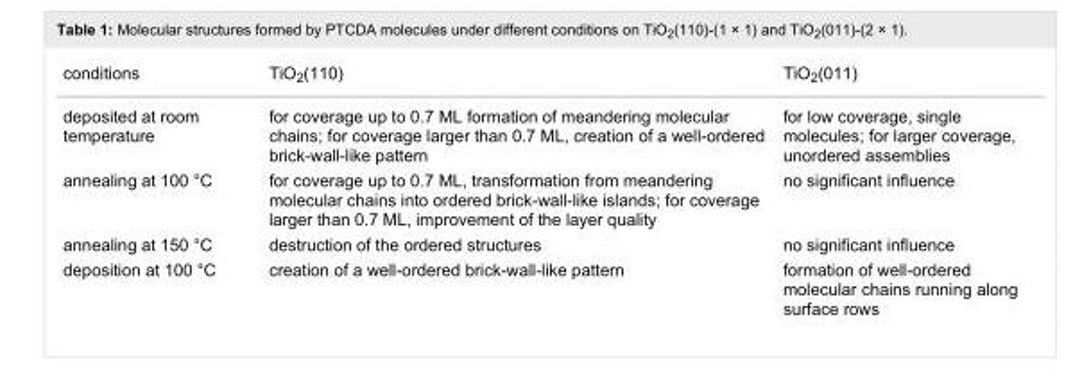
<table><tbody><tr><td>conditions</td><td>TiO<sub>2</sub>(110)</td><td>TiO<sub>2</sub>(011)</td></tr><tr><td>deposited at room temperature</td><td>for coverage up to 0.7 ML formation of meandering molecular chains; for coverage larger than 0.7 ML, creation of a well-ordered brick-wall-like pattern</td><td>for low coverage, single molecules; for larger coverage, unordered assemblies</td></tr><tr><td>annealing at 100 °C</td><td>for coverage up to 0.7 ML, transformation from meandering molecular chains into ordered brick-wall-like islands; for coverage larger than 0.7 ML, improvement of the layer quality</td><td>no significant influence</td></tr><tr><td>annealing at 150 °C</td><td>destruction of the ordered structures</td><td>no significant influence</td></tr><tr><td>deposition at 100 °C</td><td>creation of a well-ordered brick-wall-like pattern</td><td>formation of well-ordered molecular chains running along surface rows</td></tr></tbody></table>